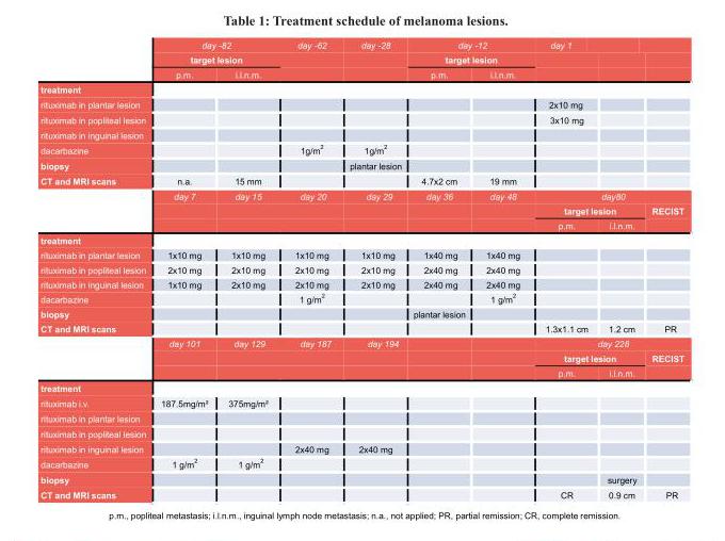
<table><thead><tr><td rowspan="3"></td><td rowspan="2" colspan="2">day -82 target lesion</td><td rowspan="3">day -62</td><td rowspan="3">day -28</td><td rowspan="2" colspan="2">day -12 target lesion</td><td colspan="3">day 1</td></tr><tr><td rowspan="2"></td><td rowspan="2"></td><td rowspan="2"></td></tr><tr><td>p.m.</td><td>i.l.n.m.</td><td>p.m.</td><td>i.l.n.m.</td></tr></thead><tbody><tr><td colspan="10">treatment</td></tr><tr><td>rituximab in plantar lesion</td><td></td><td></td><td></td><td></td><td></td><td></td><td>2x10 mg</td><td></td><td></td></tr><tr><td>rituximab in popliteal lesion</td><td></td><td></td><td></td><td></td><td></td><td></td><td>3x10 mg</td><td></td><td></td></tr><tr><td colspan="10">rituximab in inguinal lesion</td></tr><tr><td>dacarbazine</td><td></td><td></td><td>1g/m <sup>2</sup></td><td>1g/m <sup>2</sup></td><td></td><td></td><td></td><td></td><td></td></tr><tr><td>biopsy</td><td></td><td></td><td></td><td>plantar lesion</td><td></td><td></td><td></td><td></td><td></td></tr><tr><td rowspan="4">CT and MRI scans</td><td>n.a.</td><td>15 mm</td><td></td><td></td><td>4.7x2 cm</td><td>19 mm</td><td></td><td></td><td></td></tr><tr><td>day 7</td><td>day 15</td><td>day 20</td><td>day 29</td><td>day 36</td><td>day 48</td><td colspan="2">day80</td><td></td></tr><tr><td></td><td></td><td></td><td></td><td></td><td></td><td colspan="2">target lesion</td><td>RECIST</td></tr><tr><td></td><td></td><td></td><td></td><td></td><td></td><td>p.m.</td><td>i.l.n.m.</td><td></td></tr><tr><td colspan="10">treatment</td></tr><tr><td>rituximab in plantar lesion</td><td>1x10 mg</td><td>1x10 mg</td><td>1x10 mg</td><td>1x10 mg</td><td>1x40 mg</td><td>1x40 mg</td><td></td><td></td><td></td></tr><tr><td>rituximab in popliteal lesion</td><td>2x10 mg</td><td>2x10 mg</td><td>2x10 mg</td><td>2x10 mg</td><td>2x40 mg</td><td>2x40 mg</td><td></td><td></td><td></td></tr><tr><td>rituximab in inguinal lesion</td><td>1x10 mg</td><td>2x10 mg</td><td>2x10 mg</td><td>2x10 mg</td><td>2x40 mg</td><td>2x40 mg</td><td></td><td></td><td></td></tr><tr><td>dacarbazine</td><td></td><td></td><td>1 g/m <sup>2</sup></td><td></td><td></td><td>1 g/m <sup>2</sup></td><td></td><td></td><td></td></tr><tr><td>biopsy</td><td></td><td></td><td></td><td></td><td>plantar lesion</td><td></td><td></td><td></td><td></td></tr><tr><td rowspan="4">CT and MRI scans</td><td></td><td></td><td></td><td></td><td></td><td></td><td>1.3x1.1 cm</td><td>1.2 cm</td><td>PR</td></tr><tr><td>day 101</td><td>day 129</td><td>day 187</td><td>day 194</td><td></td><td></td><td colspan="2">day 228</td><td></td></tr><tr><td></td><td></td><td></td><td></td><td></td><td></td><td colspan="2">target lesion</td><td>RECIST</td></tr><tr><td></td><td></td><td></td><td></td><td></td><td></td><td>p.m.</td><td>i.l.n.m.</td><td></td></tr><tr><td colspan="10">treatment</td></tr><tr><td>rituximab i.v.</td><td>187.5mg/m²</td><td>375mg/m²</td><td></td><td></td><td></td><td></td><td></td><td></td><td></td></tr><tr><td colspan="10">rituximab in plantar lesion</td></tr><tr><td colspan="10">rituximab in popliteal lesion</td></tr><tr><td>rituximab in inguinal lesion</td><td></td><td></td><td>2x40 mg</td><td>2x40 mg</td><td></td><td></td><td></td><td></td><td></td></tr><tr><td>dacarbazine</td><td>1 g/m <sup>2</sup></td><td>1 g/m <sup>2</sup></td><td></td><td></td><td></td><td></td><td></td><td></td><td></td></tr><tr><td>biopsy</td><td></td><td></td><td></td><td></td><td></td><td></td><td></td><td>surgery</td><td></td></tr><tr><td>CT and MRI scans</td><td></td><td></td><td></td><td></td><td></td><td></td><td>CR</td><td>0.9 cm</td><td>PR</td></tr></tbody></table>